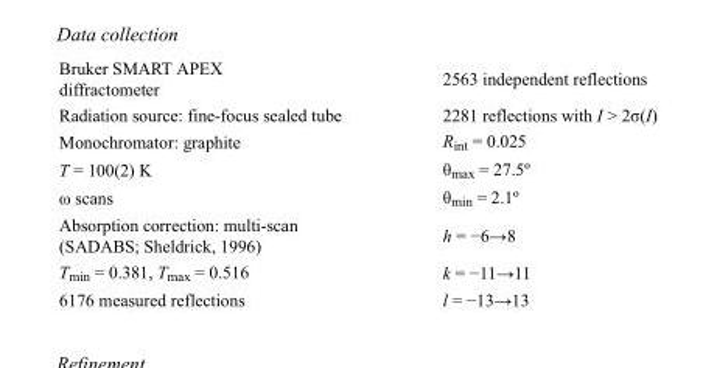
<table><tbody><tr><td>Bruker SMART APEX diffractometer</td><td>2563 independent reflections</td></tr><tr><td>Radiation source: fine-focus sealed tube</td><td>2281 reflections with I &gt; 2σ(I)</td></tr><tr><td>Monochromator: graphite</td><td>R<sub>int</sub> = 0.025</td></tr><tr><td>T = 100(2) K</td><td>θ<sub>max</sub> = 27.5º</td></tr><tr><td>ω scans</td><td>θ<sub>min</sub> = 2.1º</td></tr><tr><td>Absorption correction: multi-scan (SADABS; Sheldrick, 1996)</td><td>h = −6→8</td></tr><tr><td>T<sub>min</sub> = 0.381, T<sub>max</sub> = 0.516</td><td>k = −11→11</td></tr><tr><td>6176 measured reflections</td><td>l = −13→13</td></tr></tbody></table>